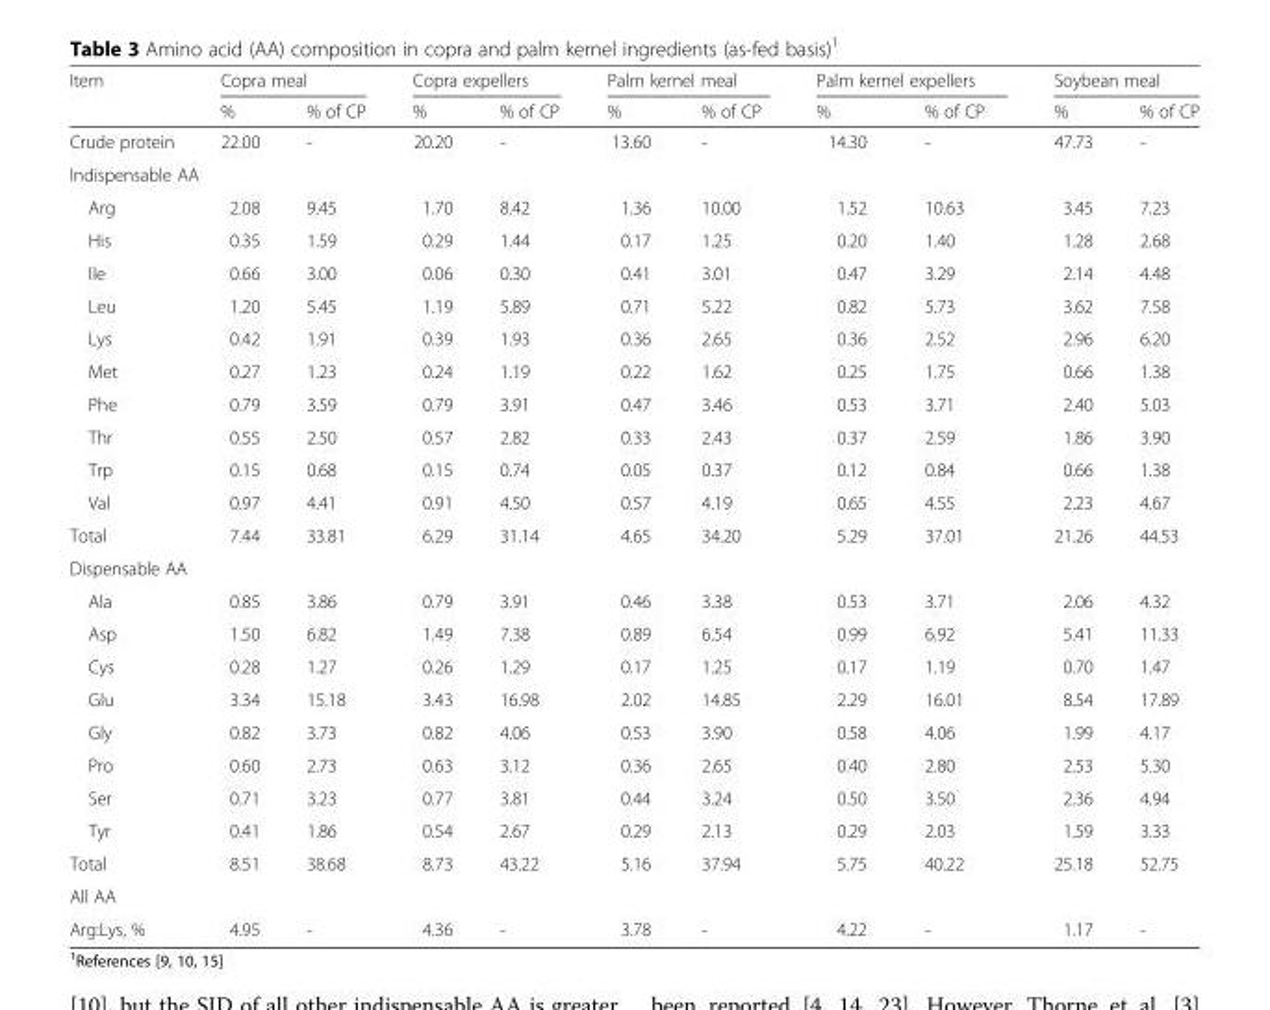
<table><thead><tr><td rowspan="2">Item</td><td colspan="2">Copra meal</td><td colspan="2">Copra expellers</td><td colspan="2">Palm kernel meal</td><td colspan="2">Palm kernel expellers</td><td colspan="2">Soybean meal</td></tr><tr><td>%</td><td>% of CP</td><td>%</td><td>% of CP</td><td>%</td><td>% of CP</td><td>%</td><td>% of CP</td><td>%</td><td>% of CP</td></tr></thead><tbody><tr><td>Crude protein</td><td>22.00</td><td>-</td><td>20.20</td><td>-</td><td>13.60</td><td>-</td><td>14.30</td><td>-</td><td>47.73</td><td>-</td></tr><tr><td colspan="11">Indispensable AA</td></tr><tr><td>Arg</td><td>2.08</td><td>9.45</td><td>1.70</td><td>8.42</td><td>1.36</td><td>10.00</td><td>1.52</td><td>10.63</td><td>3.45</td><td>7.23</td></tr><tr><td>His</td><td>0.35</td><td>1.59</td><td>0.29</td><td>1.44</td><td>0.17</td><td>1.25</td><td>0.20</td><td>1.40</td><td>1.28</td><td>2.68</td></tr><tr><td>Ile</td><td>0.66</td><td>3.00</td><td>0.06</td><td>0.30</td><td>0.41</td><td>3.01</td><td>0.47</td><td>3.29</td><td>2.14</td><td>4.48</td></tr><tr><td>Leu</td><td>1.20</td><td>5.45</td><td>1.19</td><td>5.89</td><td>0.71</td><td>5.22</td><td>0.82</td><td>5.73</td><td>3.62</td><td>7.58</td></tr><tr><td>Lys</td><td>0.42</td><td>1.91</td><td>0.39</td><td>1.93</td><td>0.36</td><td>2.65</td><td>0.36</td><td>2.52</td><td>2.96</td><td>6.20</td></tr><tr><td>Met</td><td>0.27</td><td>1.23</td><td>0.24</td><td>1.19</td><td>0.22</td><td>1.62</td><td>0.25</td><td>1.75</td><td>0.66</td><td>1.38</td></tr><tr><td>Phe</td><td>0.79</td><td>3.59</td><td>0.79</td><td>3.91</td><td>0.47</td><td>3.46</td><td>0.53</td><td>3.71</td><td>2.40</td><td>5.03</td></tr><tr><td>Thr</td><td>0.55</td><td>2.50</td><td>0.57</td><td>2.82</td><td>0.33</td><td>2.43</td><td>0.37</td><td>2.59</td><td>1.86</td><td>3.90</td></tr><tr><td>Trp</td><td>0.15</td><td>0.68</td><td>0.15</td><td>0.74</td><td>0.05</td><td>0.37</td><td>0.12</td><td>0.84</td><td>0.66</td><td>1.38</td></tr><tr><td>Val</td><td>0.97</td><td>4.41</td><td>0.91</td><td>4.50</td><td>0.57</td><td>4.19</td><td>0.65</td><td>4.55</td><td>2.23</td><td>4.67</td></tr><tr><td>Total</td><td>7.44</td><td>33.81</td><td>6.29</td><td>31.14</td><td>4.65</td><td>34.20</td><td>5.29</td><td>37.01</td><td>21.26</td><td>44.53</td></tr><tr><td colspan="11">Dispensable AA</td></tr><tr><td>Ala</td><td>0.85</td><td>3.86</td><td>0.79</td><td>3.91</td><td>0.46</td><td>3.38</td><td>0.53</td><td>3.71</td><td>2.06</td><td>4.32</td></tr><tr><td>Asp</td><td>1.50</td><td>6.82</td><td>1.49</td><td>7.38</td><td>0.89</td><td>6.54</td><td>0.99</td><td>6.92</td><td>5.41</td><td>11.33</td></tr><tr><td>Cys</td><td>0.28</td><td>1.27</td><td>0.26</td><td>1.29</td><td>0.17</td><td>1.25</td><td>0.17</td><td>1.19</td><td>0.70</td><td>1.47</td></tr><tr><td>Glu</td><td>3.34</td><td>15.18</td><td>3.43</td><td>16.98</td><td>2.02</td><td>14.85</td><td>2.29</td><td>16.01</td><td>8.54</td><td>17.89</td></tr><tr><td>Gly</td><td>0.82</td><td>3.73</td><td>0.82</td><td>4.06</td><td>0.53</td><td>3.90</td><td>0.58</td><td>4.06</td><td>1.99</td><td>4.17</td></tr><tr><td>Pro</td><td>0.60</td><td>2.73</td><td>0.63</td><td>3.12</td><td>0.36</td><td>2.65</td><td>0.40</td><td>2.80</td><td>2.53</td><td>5.30</td></tr><tr><td>Ser</td><td>0.71</td><td>3.23</td><td>0.77</td><td>3.81</td><td>0.44</td><td>3.24</td><td>0.50</td><td>3.50</td><td>2.36</td><td>4.94</td></tr><tr><td>Tyr</td><td>0.41</td><td>1.86</td><td>0.54</td><td>2.67</td><td>0.29</td><td>2.13</td><td>0.29</td><td>2.03</td><td>1.59</td><td>3.33</td></tr><tr><td>Total</td><td>8.51</td><td>38.68</td><td>8.73</td><td>43.22</td><td>5.16</td><td>37.94</td><td>5.75</td><td>40.22</td><td>25.18</td><td>52.75</td></tr><tr><td colspan="11">All AA</td></tr><tr><td>Arg:Lys, %</td><td>4.95</td><td>-</td><td>4.36</td><td>-</td><td>3.78</td><td>-</td><td>4.22</td><td>-</td><td>1.17</td><td>-</td></tr></tbody></table>